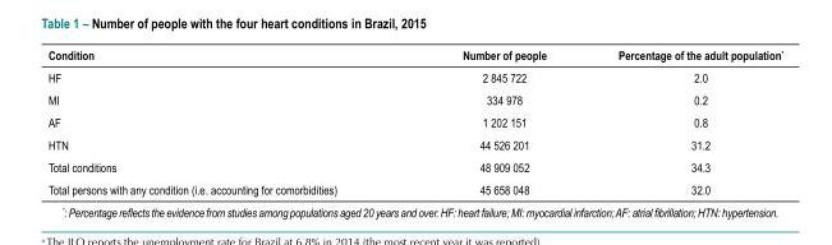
<table><thead><tr><td>Condition</td><td>Number of people</td><td>Percentage of the adult population*</td></tr></thead><tbody><tr><td>HF</td><td>2 845 722</td><td>2.0</td></tr><tr><td>MI</td><td>334 978</td><td>0.2</td></tr><tr><td>AF</td><td>1 202 151</td><td>0.8</td></tr><tr><td>HTN</td><td>44 526 201</td><td>31.2</td></tr><tr><td>Total conditions</td><td>48 909 052</td><td>34.3</td></tr><tr><td>Total persons with any condition (i.e. accounting for comorbidities)</td><td>45 658 048</td><td>32.0</td></tr></tbody></table>